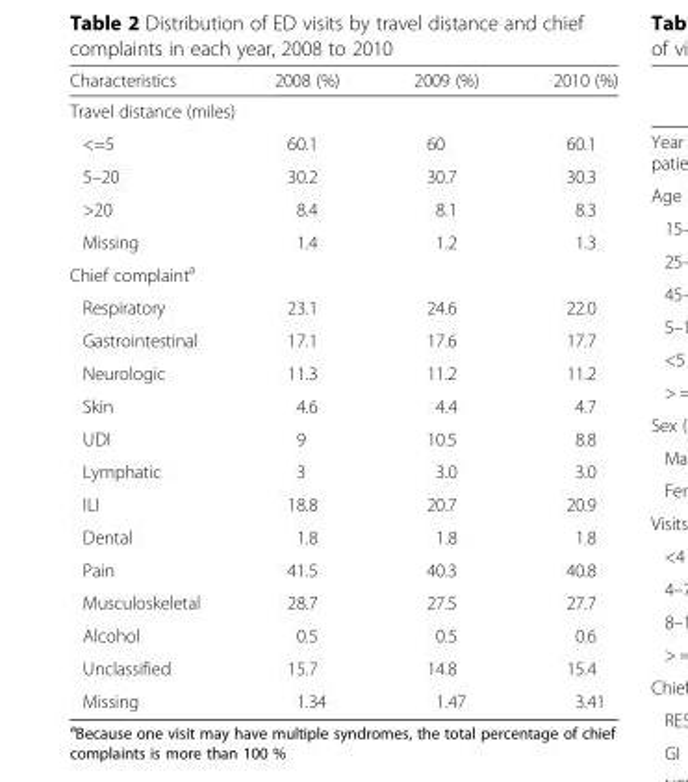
<table><thead><tr><td>Characteristics</td><td>2008 (%)</td><td>2009 (%)</td><td>2010 (%)</td></tr></thead><tbody><tr><td colspan="4">Travel distance (miles)</td></tr><tr><td>&lt;=5</td><td>60.1</td><td>60</td><td>60.1</td></tr><tr><td>5–20</td><td>30.2</td><td>30.7</td><td>30.3</td></tr><tr><td>&gt;20</td><td>8.4</td><td>8.1</td><td>8.3</td></tr><tr><td>Missing</td><td>1.4</td><td>1.2</td><td>1.3</td></tr><tr><td colspan="4">Chief complaint<sup>a</sup></td></tr><tr><td>Respiratory</td><td>23.1</td><td>24.6</td><td>22.0</td></tr><tr><td>Gastrointestinal</td><td>17.1</td><td>17.6</td><td>17.7</td></tr><tr><td>Neurologic</td><td>11.3</td><td>11.2</td><td>11.2</td></tr><tr><td>Skin</td><td>4.6</td><td>4.4</td><td>4.7</td></tr><tr><td>UDI</td><td>9</td><td>10.5</td><td>8.8</td></tr><tr><td>Lymphatic</td><td>3</td><td>3.0</td><td>3.0</td></tr><tr><td>ILI</td><td>18.8</td><td>20.7</td><td>20.9</td></tr><tr><td>Dental</td><td>1.8</td><td>1.8</td><td>1.8</td></tr><tr><td>Pain</td><td>41.5</td><td>40.3</td><td>40.8</td></tr><tr><td>Musculoskeletal</td><td>28.7</td><td>27.5</td><td>27.7</td></tr><tr><td>Alcohol</td><td>0.5</td><td>0.5</td><td>0.6</td></tr><tr><td>Unclassified</td><td>15.7</td><td>14.8</td><td>15.4</td></tr><tr><td>Missing</td><td>1.34</td><td>1.47</td><td>3.41</td></tr></tbody></table>